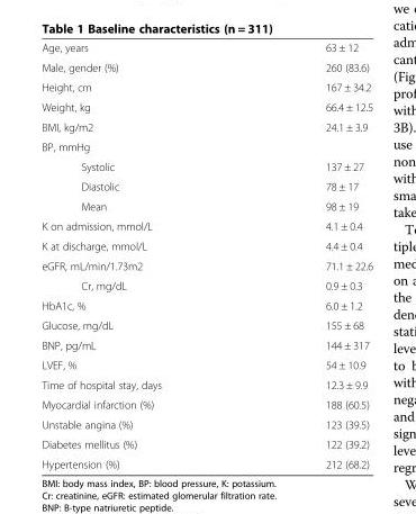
<table><tbody><tr><td>Age, years</td><td>63 ± 12</td></tr><tr><td>Male, gender (%)</td><td>260 (83.6)</td></tr><tr><td>Height, cm</td><td>167 ± 34.2</td></tr><tr><td>Weight, kg</td><td>66.4 ± 12.5</td></tr><tr><td>BMI, kg/m2</td><td>24.1 ± 3.9</td></tr><tr><td colspan="2">BP, mmHg</td></tr><tr><td>Systolic</td><td>137 ± 27</td></tr><tr><td>Diastolic</td><td>78 ± 17</td></tr><tr><td>Mean</td><td>98 ± 19</td></tr><tr><td>K on admission, mmol/L</td><td>4.1 ± 0.4</td></tr><tr><td>K at discharge, mmol/L</td><td>4.4 ± 0.4</td></tr><tr><td>eGFR, mL/min/1.73m2</td><td>71.1 ± 22.6</td></tr><tr><td>Cr, mg/dL</td><td>0.9 ± 0.3</td></tr><tr><td>HbA1c, %</td><td>6.0 ± 1.2</td></tr><tr><td>Glucose, mg/dL</td><td>155 ± 68</td></tr><tr><td>BNP, pg/mL</td><td>144 ± 317</td></tr><tr><td>LVEF, %</td><td>54 ± 10.9</td></tr><tr><td>Time of hospital stay, days</td><td>12.3 ± 9.9</td></tr><tr><td>Myocardial infarction (%)</td><td>188 (60.5)</td></tr><tr><td>Unstable angina (%)</td><td>123 (39.5)</td></tr><tr><td>Diabetes mellitus (%)</td><td>122 (39.2)</td></tr><tr><td>Hypertension (%)</td><td>212 (68.2)</td></tr></tbody></table>